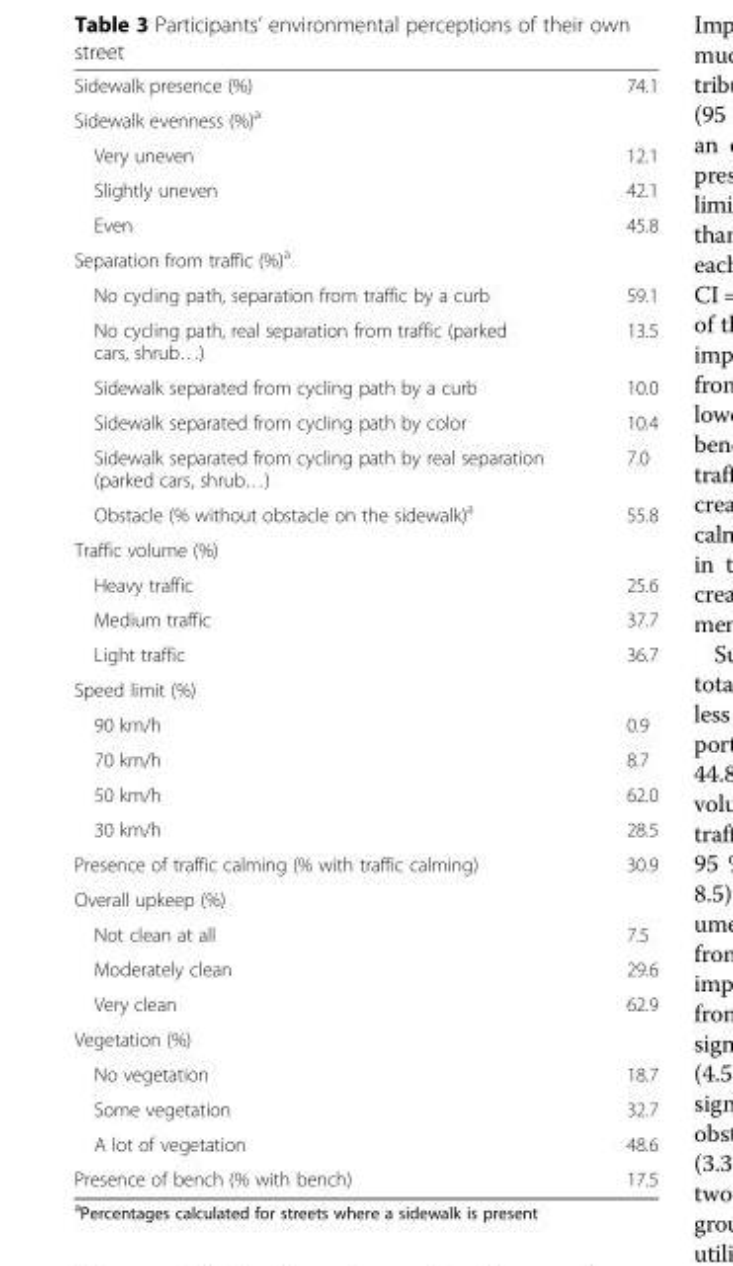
<table><tbody><tr><td>Sidewalk presence (%)</td><td>74.1</td></tr><tr><td colspan="2">Sidewalk evenness (%)<sup>a</sup></td></tr><tr><td>Very uneven</td><td>12.1</td></tr><tr><td>Slightly uneven</td><td>42.1</td></tr><tr><td>Even</td><td>45.8</td></tr><tr><td colspan="2">Separation from traffic (%)<sup>a</sup></td></tr><tr><td>No cycling path, separation from traffic by a curb</td><td>59.1</td></tr><tr><td>No cycling path, real separation from traffic (parked cars, shrub…)</td><td>13.5</td></tr><tr><td>Sidewalk separated from cycling path by a curb</td><td>10.0</td></tr><tr><td>Sidewalk separated from cycling path by color</td><td>10.4</td></tr><tr><td>Sidewalk separated from cycling path by real separation (parked cars, shrub…)</td><td>7.0</td></tr><tr><td>Obstacle (% without obstacle on the sidewalk)<sup>a</sup></td><td>55.8</td></tr><tr><td colspan="2">Traffic volume (%)</td></tr><tr><td>Heavy traffic</td><td>25.6</td></tr><tr><td>Medium traffic</td><td>37.7</td></tr><tr><td>Light traffic</td><td>36.7</td></tr><tr><td colspan="2">Speed limit (%)</td></tr><tr><td>90 km/h</td><td>0.9</td></tr><tr><td>70 km/h</td><td>8.7</td></tr><tr><td>50 km/h</td><td>62.0</td></tr><tr><td>30 km/h</td><td>28.5</td></tr><tr><td>Presence of traffic calming (% with traffic calming)</td><td>30.9</td></tr><tr><td colspan="2">Overall upkeep (%)</td></tr><tr><td>Not clean at all</td><td>7.5</td></tr><tr><td>Moderately clean</td><td>29.6</td></tr><tr><td>Very clean</td><td>62.9</td></tr><tr><td colspan="2">Vegetation (%)</td></tr><tr><td>No vegetation</td><td>18.7</td></tr><tr><td>Some vegetation</td><td>32.7</td></tr><tr><td>A lot of vegetation</td><td>48.6</td></tr><tr><td>Presence of bench (% with bench)</td><td>17.5</td></tr></tbody></table>